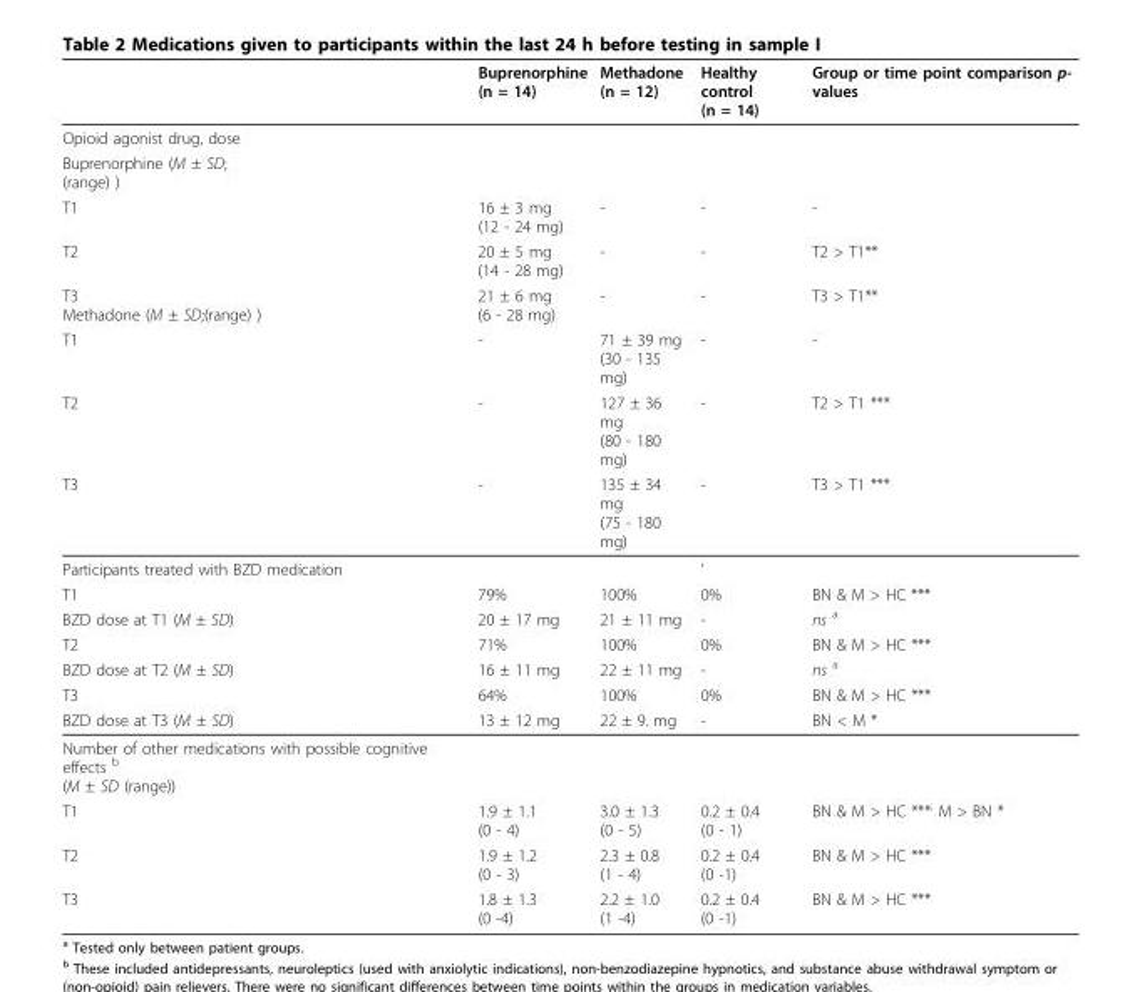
<table><thead><tr><td></td><td>Buprenorphine (n = 14)</td><td>Methadone (n = 12)</td><td>Healthy control (n = 14)</td><td>Group or time point comparison p- values</td></tr></thead><tbody><tr><td colspan="5">Opioid agonist drug, dose</td></tr><tr><td colspan="5">Buprenorphine (M ± SD; (range) )</td></tr><tr><td>T1</td><td>16 ± 3 mg (12 - 24 mg)</td><td>-</td><td>-</td><td>-</td></tr><tr><td>T2</td><td>20 ± 5 mg (14 - 28 mg)</td><td>-</td><td>-</td><td>T2 &gt; T1**</td></tr><tr><td>T3 Methadone (M ± SD;(range) )</td><td>21 ± 6 mg (6 - 28 mg)</td><td>-</td><td>-</td><td>T3 &gt; T1**</td></tr><tr><td>T1</td><td>-</td><td>71 ± 39 mg (30 - 135 mg)</td><td>-</td><td>-</td></tr><tr><td>T2</td><td>-</td><td>127 ± 36 mg (80 - 180 mg)</td><td>-</td><td>T2 &gt; T1 ***</td></tr><tr><td>T3</td><td>-</td><td>135 ± 34 mg (75 - 180 mg)</td><td>-</td><td>T3 &gt; T1 ***</td></tr><tr><td>Participants treated with BZD medication</td><td></td><td></td><td>’</td><td></td></tr><tr><td>T1</td><td>79%</td><td>100%</td><td>0%</td><td>BN &amp; M &gt; HC ***</td></tr><tr><td>BZD dose at T1 (M ± SD)</td><td>20 ± 17 mg</td><td>21 ± 11 mg</td><td>-</td><td>ns <sup>a</sup></td></tr><tr><td>T2</td><td>71%</td><td>100%</td><td>0%</td><td>BN &amp; M &gt; HC ***</td></tr><tr><td>BZD dose at T2 (M ± SD)</td><td>16 ± 11 mg</td><td>22 ± 11 mg</td><td>-</td><td>ns <sup>a</sup></td></tr><tr><td>T3</td><td>64%</td><td>100%</td><td>0%</td><td>BN &amp; M &gt; HC ***</td></tr><tr><td>BZD dose at T3 (M ± SD)</td><td>13 ± 12 mg</td><td>22 ± 9. mg</td><td>-</td><td>BN &lt; M *</td></tr><tr><td colspan="5">Number of other medications with possible cognitive effects <sup>b</sup> (M ± SD (range))</td></tr><tr><td>T1</td><td>1.9 ± 1.1 (0 - 4)</td><td>3.0 ± 1.3 (0 - 5)</td><td>0.2 ± 0.4 (0 - 1)</td><td>BN &amp; M &gt; HC ***<sup>;</sup> M &gt; BN *</td></tr><tr><td>T2</td><td>1.9 ± 1.2 (0 - 3)</td><td>2.3 ± 0.8 (1 - 4)</td><td>0.2 ± 0.4 (0 -1)</td><td>BN &amp; M &gt; HC ***</td></tr><tr><td>T3</td><td>1.8 ± 1.3 (0 -4)</td><td>2.2 ± 1.0 (1 -4)</td><td>0.2 ± 0.4 (0 -1)</td><td>BN &amp; M &gt; HC ***</td></tr></tbody></table>